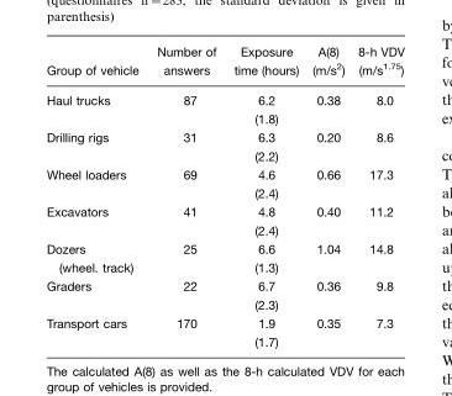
<table><thead><tr><td>Group of vehicle</td><td>Number of answers</td><td>Exposure time (hours)</td><td>A(8) (m/s<sup>2</sup>)</td><td>8-h VDV (m/s<sup>1.75</sup>)</td></tr></thead><tbody><tr><td rowspan="2">Haul trucks</td><td>87</td><td>6.2</td><td>0.38</td><td>8.0</td></tr><tr><td></td><td>(1.8)</td><td></td><td></td></tr><tr><td rowspan="2">Drilling rigs</td><td>31</td><td>6.3</td><td>0.20</td><td>8.6</td></tr><tr><td></td><td>(2.2)</td><td></td><td></td></tr><tr><td rowspan="2">Wheel loaders</td><td>69</td><td>4.6</td><td>0.66</td><td>17.3</td></tr><tr><td></td><td>(2.4)</td><td></td><td></td></tr><tr><td rowspan="2">Excavators</td><td>41</td><td>4.8</td><td>0.40</td><td>11.2</td></tr><tr><td></td><td>(2.4)</td><td></td><td></td></tr><tr><td>Dozers</td><td>25</td><td>6.6</td><td>1.04</td><td>14.8</td></tr><tr><td>(wheel. track)</td><td></td><td>(1.3)</td><td></td><td></td></tr><tr><td rowspan="2">Graders</td><td>22</td><td>6.7</td><td>0.36</td><td>9.8</td></tr><tr><td></td><td>(2.3)</td><td></td><td></td></tr><tr><td rowspan="2">Transport cars</td><td>170</td><td>1.9</td><td>0.35</td><td>7.3</td></tr><tr><td></td><td>(1.7)</td><td></td><td></td></tr></tbody></table>